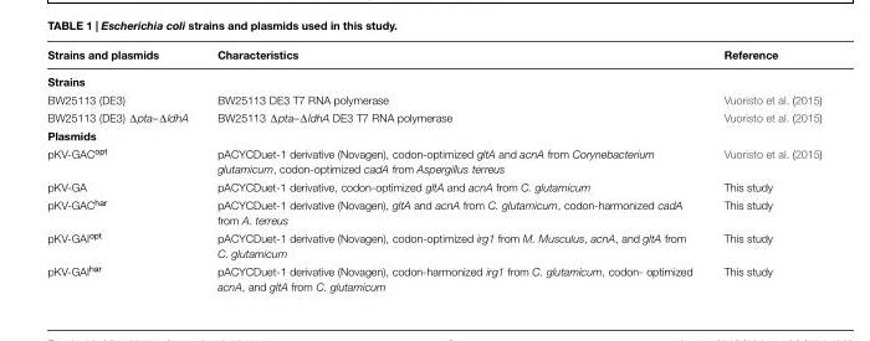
<table><thead><tr><td>Strains and plasmids</td><td>Characteristics</td><td>Reference</td></tr></thead><tbody><tr><td colspan="3">Strains</td></tr><tr><td>BW25113 (DE3)</td><td>BW25113 DE3 T7 RNA polymerase</td><td>Vuoristo et al. (2015)</td></tr><tr><td>BW25113 (DE3) Δpta–ΔldhA</td><td>BW25113 Δpta–ΔldhA DE3 T7 RNA polymerase</td><td>Vuoristo et al. (2015)</td></tr><tr><td colspan="3">Plasmids</td></tr><tr><td>pKV-GAC<sup>opt</sup></td><td>pACYCDuet-1 derivative (Novagen), codon-optimized gltA and acnA from Corynebacterium glutamicum, codon-optimized cadA from Aspergillus terreus</td><td>Vuoristo et al. (2015)</td></tr><tr><td>pKV-GA</td><td>pACYCDuet-1 derivative, codon-optimized gltA and acnA from C. glutamicum</td><td>This study</td></tr><tr><td>pKV-GAC<sup>har</sup></td><td>pACYCDuet-1 derivative (Novagen), gltA and acnA from C. glutamicum, codon-harmonized cadA from A. terreus</td><td>This study</td></tr><tr><td>pKV-GAI<sup>opt</sup></td><td>pACYCDuet-1 derivative (Novagen), codon-optimized irg1 from M. Musculus, acnA, and gltA from C. glutamicum</td><td>This study</td></tr><tr><td>pKV-GAI<sup>har</sup></td><td>pACYCDuet-1 derivative (Novagen), codon-harmonized irg1 from C. glutamicum, codon- optimized acnA, and gltA from C. glutamicum</td><td>This study</td></tr></tbody></table>